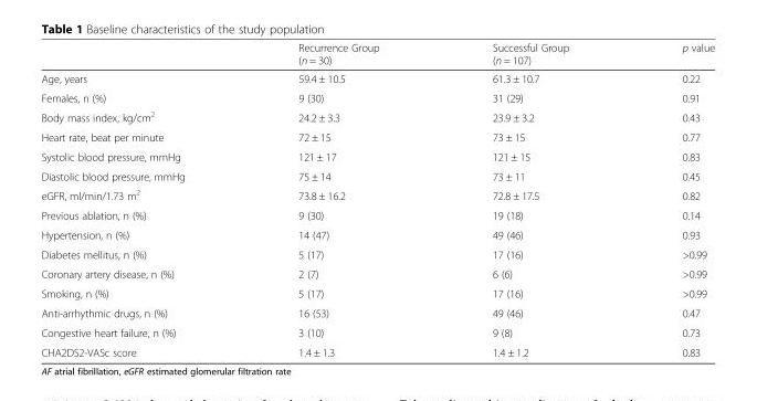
<table><thead><tr><td></td><td>Recurrence Group (n = 30)</td><td>Successful Group (n = 107)</td><td>p value</td></tr></thead><tbody><tr><td>Age, years</td><td>59.4 ± 10.5</td><td>61.3 ± 10.7</td><td>0.22</td></tr><tr><td>Females, n (%)</td><td>9 (30)</td><td>31 (29)</td><td>0.91</td></tr><tr><td>Body mass index, kg/cm<sup>2</sup></td><td>24.2 ± 3.3</td><td>23.9 ± 3.2</td><td>0.43</td></tr><tr><td>Heart rate, beat per minute</td><td>72 ± 15</td><td>73 ± 15</td><td>0.77</td></tr><tr><td>Systolic blood pressure, mmHg</td><td>121 ± 17</td><td>121 ± 15</td><td>0.83</td></tr><tr><td>Diastolic blood pressure, mmHg</td><td>75 ± 14</td><td>73 ± 11</td><td>0.45</td></tr><tr><td>eGFR, ml/min/1.73 m<sup>2</sup></td><td>73.8 ± 16.2</td><td>72.8 ± 17.5</td><td>0.82</td></tr><tr><td>Previous ablation, n (%)</td><td>9 (30)</td><td>19 (18)</td><td>0.14</td></tr><tr><td>Hypertension, n (%)</td><td>14 (47)</td><td>49 (46)</td><td>0.93</td></tr><tr><td>Diabetes mellitus, n (%)</td><td>5 (17)</td><td>17 (16)</td><td>&gt;0.99</td></tr><tr><td>Coronary artery disease, n (%)</td><td>2 (7)</td><td>6 (6)</td><td>&gt;0.99</td></tr><tr><td>Smoking, n (%)</td><td>5 (17)</td><td>17 (16)</td><td>&gt;0.99</td></tr><tr><td>Anti-arrhythmic drugs, n (%)</td><td>16 (53)</td><td>49 (46)</td><td>0.47</td></tr><tr><td>Congestive heart failure, n (%)</td><td>3 (10)</td><td>9 (8)</td><td>0.73</td></tr><tr><td>CHA2DS2-VASc score</td><td>1.4 ± 1.3</td><td>1.4 ± 1.2</td><td>0.83</td></tr></tbody></table>